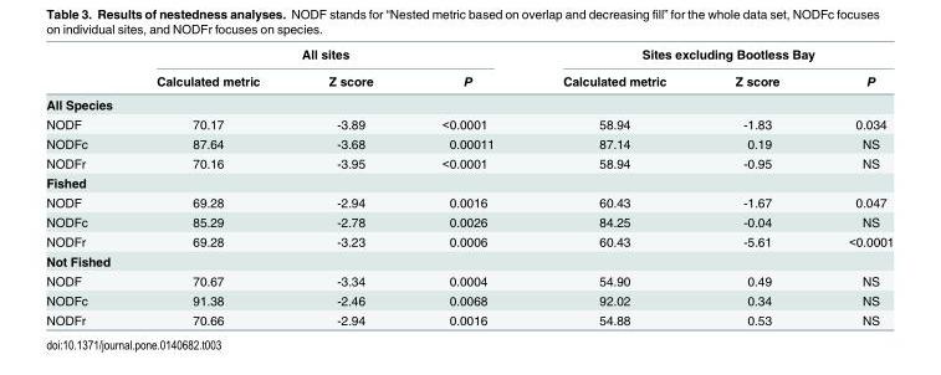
<table><thead><tr><td rowspan="2"></td><td colspan="3">All sites</td><td colspan="3">Sites excluding Bootless Bay</td></tr><tr><td>Calculated metric</td><td>Z score</td><td>P</td><td>Calculated metric</td><td>Z score</td><td>P</td></tr></thead><tbody><tr><td colspan="7">All Species</td></tr><tr><td>NODF</td><td>70.17</td><td>-3.89</td><td>&lt;0.0001</td><td>58.94</td><td>-1.83</td><td>0.034</td></tr><tr><td>NODFc</td><td>87.64</td><td>-3.68</td><td>0.00011</td><td>87.14</td><td>0.19</td><td>NS</td></tr><tr><td>NODFr</td><td>70.16</td><td>-3.95</td><td>&lt;0.0001</td><td>58.94</td><td>-0.95</td><td>NS</td></tr><tr><td colspan="7">Fished</td></tr><tr><td>NODF</td><td>69.28</td><td>-2.94</td><td>0.0016</td><td>60.43</td><td>-1.67</td><td>0.047</td></tr><tr><td>NODFc</td><td>85.29</td><td>-2.78</td><td>0.0026</td><td>84.25</td><td>-0.04</td><td>NS</td></tr><tr><td>NODFr</td><td>69.28</td><td>-3.23</td><td>0.0006</td><td>60.43</td><td>-5.61</td><td>&lt;0.0001</td></tr><tr><td colspan="7">Not Fished</td></tr><tr><td>NODF</td><td>70.67</td><td>-3.34</td><td>0.0004</td><td>54.90</td><td>0.49</td><td>NS</td></tr><tr><td>NODFc</td><td>91.38</td><td>-2.46</td><td>0.0068</td><td>92.02</td><td>0.34</td><td>NS</td></tr><tr><td>NODFr</td><td>70.66</td><td>-2.94</td><td>0.0016</td><td>54.88</td><td>0.53</td><td>NS</td></tr></tbody></table>